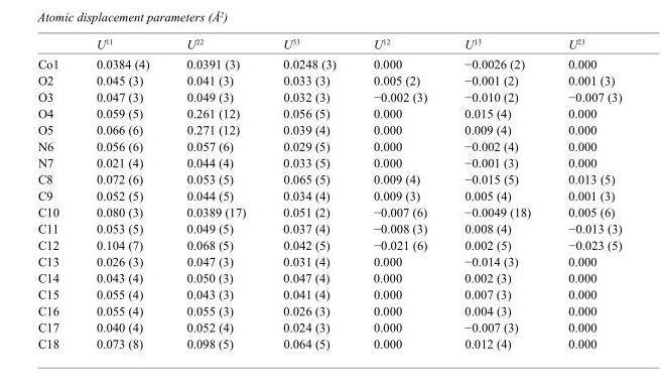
<table><thead><tr><td></td><td>U<sup>11</sup></td><td>U<sup>22</sup></td><td>U<sup>33</sup></td><td>U<sup>12</sup></td><td>U<sup>13</sup></td><td>U<sup>23</sup></td></tr></thead><tbody><tr><td>Co1</td><td>0.0384 (4)</td><td>0.0391 (3)</td><td>0.0248 (3)</td><td>0.000</td><td>−0.0026 (2)</td><td>0.000</td></tr><tr><td>O2</td><td>0.045 (3)</td><td>0.041 (3)</td><td>0.033 (3)</td><td>0.005 (2)</td><td>−0.001 (2)</td><td>0.001 (3)</td></tr><tr><td>O3</td><td>0.047 (3)</td><td>0.049 (3)</td><td>0.032 (3)</td><td>−0.002 (3)</td><td>−0.010 (2)</td><td>−0.007 (3)</td></tr><tr><td>O4</td><td>0.059 (5)</td><td>0.261 (12)</td><td>0.056 (5)</td><td>0.000</td><td>0.015 (4)</td><td>0.000</td></tr><tr><td>O5</td><td>0.066 (6)</td><td>0.271 (12)</td><td>0.039 (4)</td><td>0.000</td><td>0.009 (4)</td><td>0.000</td></tr><tr><td>N6</td><td>0.056 (6)</td><td>0.057 (6)</td><td>0.029 (5)</td><td>0.000</td><td>−0.002 (4)</td><td>0.000</td></tr><tr><td>N7</td><td>0.021 (4)</td><td>0.044 (4)</td><td>0.033 (5)</td><td>0.000</td><td>−0.001 (3)</td><td>0.000</td></tr><tr><td>C8</td><td>0.072 (6)</td><td>0.053 (5)</td><td>0.065 (5)</td><td>0.009 (4)</td><td>−0.015 (5)</td><td>0.013 (5)</td></tr><tr><td>C9</td><td>0.052 (5)</td><td>0.044 (5)</td><td>0.034 (4)</td><td>0.009 (3)</td><td>0.005 (4)</td><td>0.001 (3)</td></tr><tr><td>C10</td><td>0.080 (3)</td><td>0.0389 (17)</td><td>0.051 (2)</td><td>−0.007 (6)</td><td>−0.0049 (18)</td><td>0.005 (6)</td></tr><tr><td>C11</td><td>0.053 (5)</td><td>0.049 (5)</td><td>0.037 (4)</td><td>−0.008 (3)</td><td>0.008 (4)</td><td>−0.013 (3)</td></tr><tr><td>C12</td><td>0.104 (7)</td><td>0.068 (5)</td><td>0.042 (5)</td><td>−0.021 (6)</td><td>0.002 (5)</td><td>−0.023 (5)</td></tr><tr><td>C13</td><td>0.026 (3)</td><td>0.047 (3)</td><td>0.031 (4)</td><td>0.000</td><td>−0.014 (3)</td><td>0.000</td></tr><tr><td>C14</td><td>0.043 (4)</td><td>0.050 (3)</td><td>0.047 (4)</td><td>0.000</td><td>0.002 (3)</td><td>0.000</td></tr><tr><td>C15</td><td>0.055 (4)</td><td>0.043 (3)</td><td>0.041 (4)</td><td>0.000</td><td>0.007 (3)</td><td>0.000</td></tr><tr><td>C16</td><td>0.055 (4)</td><td>0.055 (3)</td><td>0.026 (3)</td><td>0.000</td><td>0.004 (3)</td><td>0.000</td></tr><tr><td>C17</td><td>0.040 (4)</td><td>0.052 (4)</td><td>0.024 (3)</td><td>0.000</td><td>−0.007 (3)</td><td>0.000</td></tr><tr><td>C18</td><td>0.073 (8)</td><td>0.098 (5)</td><td>0.064 (5)</td><td>0.000</td><td>0.012 (4)</td><td>0.000</td></tr></tbody></table>